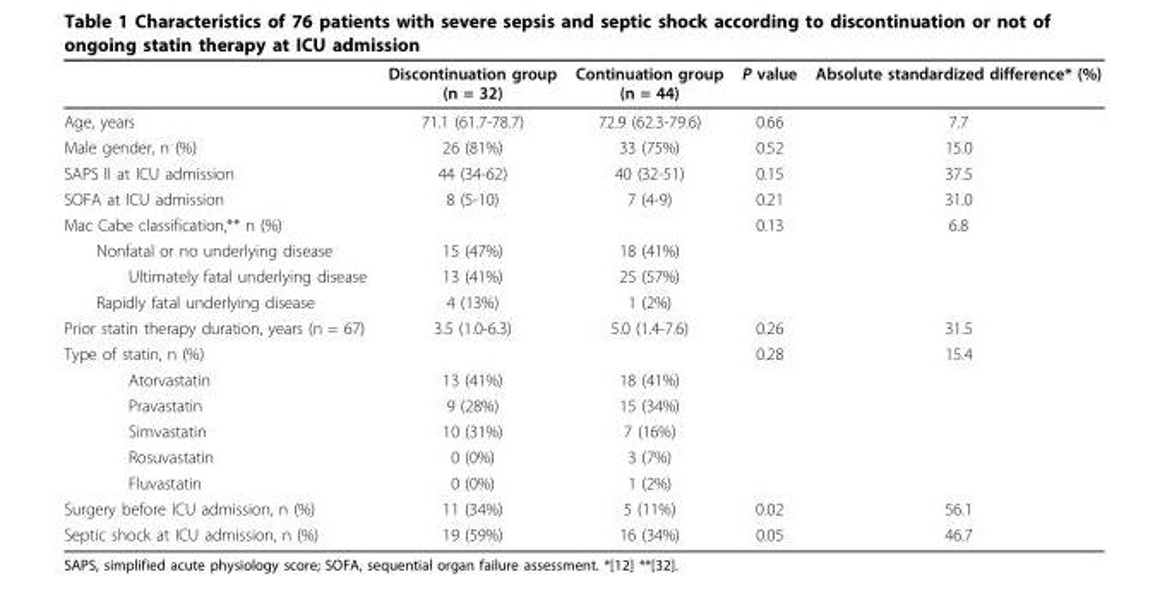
<table><thead><tr><td></td><td>Discontinuation group (n = 32)</td><td>Continuation group (n = 44)</td><td>P value</td><td>Absolute standardized difference* (%)</td></tr></thead><tbody><tr><td>Age, years</td><td>71.1 (61.7-78.7)</td><td>72.9 (62.3-79.6)</td><td>0.66</td><td>7.7</td></tr><tr><td>Male gender, n (%)</td><td>26 (81%)</td><td>33 (75%)</td><td>0.52</td><td>15.0</td></tr><tr><td>SAPS II at ICU admission</td><td>44 (34-62)</td><td>40 (32-51)</td><td>0.15</td><td>37.5</td></tr><tr><td>SOFA at ICU admission</td><td>8 (5-10)</td><td>7 (4-9)</td><td>0.21</td><td>31.0</td></tr><tr><td>Mac Cabe classification,** n (%)</td><td></td><td></td><td>0.13</td><td>6.8</td></tr><tr><td>Nonfatal or no underlying disease</td><td>15 (47%)</td><td>18 (41%)</td><td></td><td></td></tr><tr><td>Ultimately fatal underlying disease</td><td>13 (41%)</td><td>25 (57%)</td><td></td><td></td></tr><tr><td>Rapidly fatal underlying disease</td><td>4 (13%)</td><td>1 (2%)</td><td></td><td></td></tr><tr><td>Prior statin therapy duration, years (n = 67)</td><td>3.5 (1.0-6.3)</td><td>5.0 (1.4-7.6)</td><td>0.26</td><td>31.5</td></tr><tr><td>Type of statin, n (%)</td><td></td><td></td><td>0.28</td><td>15.4</td></tr><tr><td>Atorvastatin</td><td>13 (41%)</td><td>18 (41%)</td><td></td><td></td></tr><tr><td>Pravastatin</td><td>9 (28%)</td><td>15 (34%)</td><td></td><td></td></tr><tr><td>Simvastatin</td><td>10 (31%)</td><td>7 (16%)</td><td></td><td></td></tr><tr><td>Rosuvastatin</td><td>0 (0%)</td><td>3 (7%)</td><td></td><td></td></tr><tr><td>Fluvastatin</td><td>0 (0%)</td><td>1 (2%)</td><td></td><td></td></tr><tr><td>Surgery before ICU admission, n (%)</td><td>11 (34%)</td><td>5 (11%)</td><td>0.02</td><td>56.1</td></tr><tr><td>Septic shock at ICU admission, n (%)</td><td>19 (59%)</td><td>16 (34%)</td><td>0.05</td><td>46.7</td></tr></tbody></table>